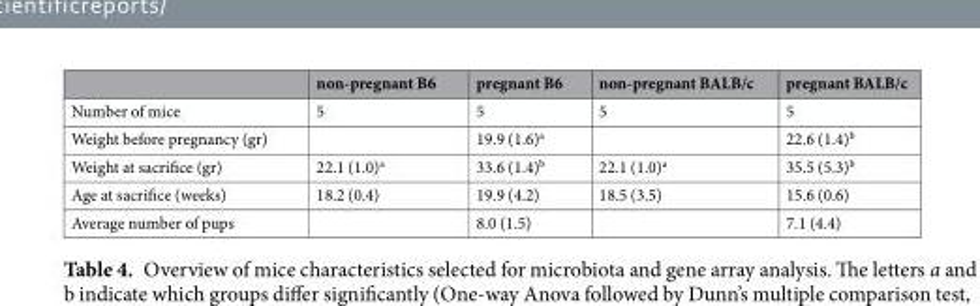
<table><thead><tr><td></td><td>non-pregnant B6</td><td>pregnant B6</td><td>non-pregnant BALB/c</td><td>pregnant BALB/c</td></tr></thead><tbody><tr><td>Number of mice</td><td>5</td><td>5</td><td>5</td><td>5</td></tr><tr><td>Weight before pregnancy (gr)</td><td></td><td>19.9 (1.6)<sup>a</sup></td><td></td><td>22.6 (1.4)<sup>b</sup></td></tr><tr><td>Weight at sacrifice (gr)</td><td>22.1 (1.0)<sup>a</sup></td><td>33.6 (1.4)<sup>b</sup></td><td>22.1 (1.0)<sup>a</sup></td><td>35.5 (5.3)<sup>b</sup></td></tr><tr><td>Age at sacrifice (weeks)</td><td>18.2 (0.4)</td><td>19.9 (4.2)</td><td>18.5 (3.5)</td><td>15.6 (0.6)</td></tr><tr><td>Average number of pups</td><td></td><td>8.0 (1.5)</td><td></td><td>7.1 (4.4)</td></tr></tbody></table>